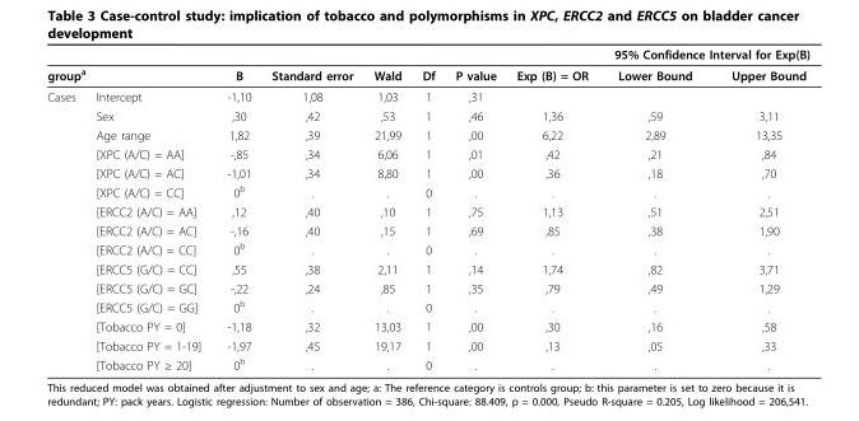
<table><thead><tr><td></td><td></td><td rowspan="2">B</td><td rowspan="2">Standard error</td><td rowspan="2">Wald</td><td rowspan="2">Df</td><td rowspan="2">P value</td><td rowspan="2">Exp (B) = OR</td><td colspan="2">95% Confidence Interval for Exp(B)</td></tr><tr><td colspan="2">group<sup>a</sup></td><td>Lower Bound</td><td>Upper Bound</td></tr></thead><tbody><tr><td rowspan="15">Cases</td><td>Intercept</td><td>-1,10</td><td>1,08</td><td>1,03</td><td>1</td><td>,31</td><td></td><td></td><td></td></tr><tr><td>Sex</td><td>,30</td><td>,42</td><td>,53</td><td>1</td><td>,46</td><td>1,36</td><td>,59</td><td>3,11</td></tr><tr><td>Age range</td><td>1,82</td><td>,39</td><td>21,99</td><td>1</td><td>,00</td><td>6,22</td><td>2,89</td><td>13,35</td></tr><tr><td>[XPC (A/C) = AA]</td><td>-,85</td><td>,34</td><td>6,06</td><td>1</td><td>,01</td><td>,42</td><td>,21</td><td>,84</td></tr><tr><td>[XPC (A/C) = AC]</td><td>-1,01</td><td>,34</td><td>8,80</td><td>1</td><td>,00</td><td>,36</td><td>,18</td><td>,70</td></tr><tr><td>[XPC (A/C) = CC]</td><td>0<sup>b</sup></td><td>.</td><td>.</td><td>0</td><td>.</td><td>.</td><td>.</td><td>.</td></tr><tr><td>[ERCC2 (A/C) = AA]</td><td>,12</td><td>,40</td><td>,10</td><td>1</td><td>,75</td><td>1,13</td><td>,51</td><td>2,51</td></tr><tr><td>[ERCC2 (A/C) = AC]</td><td>-,16</td><td>,40</td><td>,15</td><td>1</td><td>,69</td><td>,85</td><td>,38</td><td>1,90</td></tr><tr><td>[ERCC2 (A/C) = CC]</td><td>0<sup>b</sup></td><td>.</td><td>.</td><td>0</td><td>.</td><td>.</td><td>.</td><td>.</td></tr><tr><td>[ERCC5 (G/C) = CC]</td><td>,55</td><td>,38</td><td>2,11</td><td>1</td><td>,14</td><td>1,74</td><td>,82</td><td>3,71</td></tr><tr><td>[ERCC5 (G/C) = GC]</td><td>-,22</td><td>,24</td><td>,85</td><td>1</td><td>,35</td><td>,79</td><td>,49</td><td>1,29</td></tr><tr><td>[ERCC5 (G/C) = GG]</td><td>0<sup>b</sup></td><td>.</td><td>.</td><td>0</td><td>.</td><td>.</td><td>.</td><td>.</td></tr><tr><td>[Tobacco PY = 0]</td><td>-1,18</td><td>,32</td><td>13,03</td><td>1</td><td>,00</td><td>,30</td><td>,16</td><td>,58</td></tr><tr><td>[Tobacco PY = 1-19]</td><td>-1,97</td><td>,45</td><td>19,17</td><td>1</td><td>,00</td><td>,13</td><td>,05</td><td>,33</td></tr><tr><td>[Tobacco PY ≥ 20]</td><td>0<sup>b</sup></td><td>.</td><td>.</td><td>0</td><td>.</td><td>.</td><td>.</td><td>.</td></tr></tbody></table>